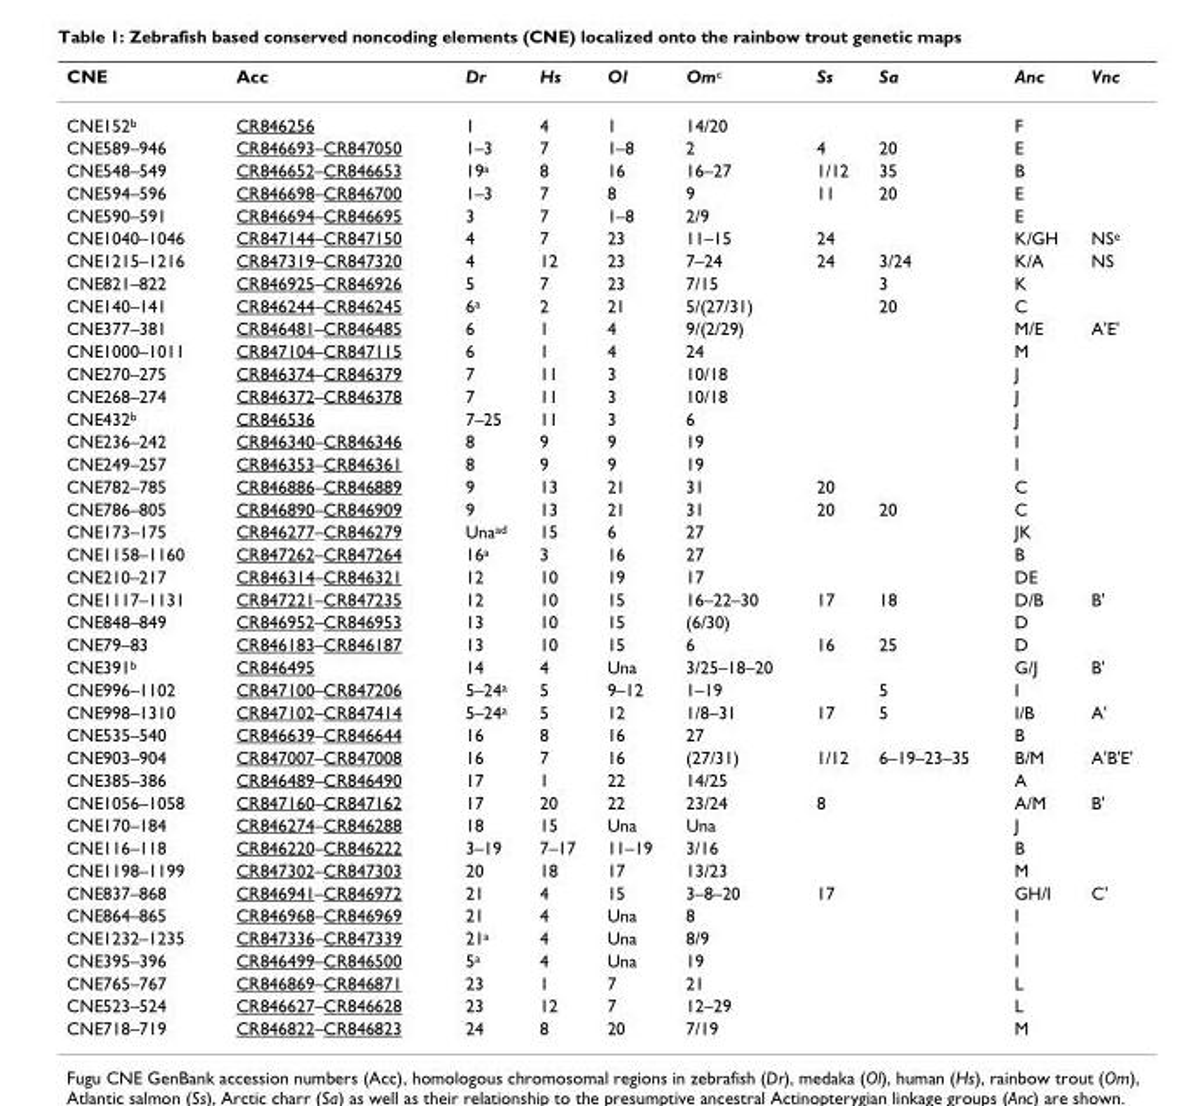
<table><thead><tr><td>CNE</td><td>Acc</td><td>Dr</td><td>Hs</td><td>Ol</td><td>Om<sup>c</sup></td><td>Ss</td><td>Sa</td><td>Anc</td><td>Vnc</td></tr></thead><tbody><tr><td>CNE152<sup>b</sup></td><td>CR846256</td><td>1</td><td>4</td><td>1</td><td>14/20</td><td></td><td></td><td>F</td><td></td></tr><tr><td>CNE589–946</td><td>CR846693–CR847050</td><td>1–3</td><td>7</td><td>1–8</td><td>2</td><td>4</td><td>20</td><td>E</td><td></td></tr><tr><td>CNE548–549</td><td>CR846652–CR846653</td><td>19<sup>a</sup></td><td>8</td><td>16</td><td>16–27</td><td>1/12</td><td>35</td><td>B</td><td></td></tr><tr><td>CNE594–596</td><td>CR846698–CR846700</td><td>1–3</td><td>7</td><td>8</td><td>9</td><td>11</td><td>20</td><td>E</td><td></td></tr><tr><td>CNE590–591</td><td>CR846694–CR846695</td><td>3</td><td>7</td><td>1–8</td><td>2/9</td><td></td><td></td><td>E</td><td></td></tr><tr><td>CNE1040–1046</td><td>CR847144–CR847150</td><td>4</td><td>7</td><td>23</td><td>11–15</td><td>24</td><td></td><td>K/GH</td><td>NS<sup>e</sup></td></tr><tr><td>CNE1215–1216</td><td>CR847319–CR847320</td><td>4</td><td>12</td><td>23</td><td>7–24</td><td>24</td><td>3/24</td><td>K/A</td><td>NS</td></tr><tr><td>CNE821–822</td><td>CR846925–CR846926</td><td>5</td><td>7</td><td>23</td><td>7/15</td><td></td><td>3</td><td>K</td><td></td></tr><tr><td>CNE140–141</td><td>CR846244–CR846245</td><td>6<sup>a</sup></td><td>2</td><td>21</td><td>5/(27/31)</td><td></td><td>20</td><td>C</td><td></td></tr><tr><td>CNE377–381</td><td>CR846481–CR846485</td><td>6</td><td>1</td><td>4</td><td>9/(2/29)</td><td></td><td></td><td>M/E</td><td>A&#x27;E&#x27;</td></tr><tr><td>CNE1000–1011</td><td>CR847104–CR847115</td><td>6</td><td>1</td><td>4</td><td>24</td><td></td><td></td><td>M</td><td></td></tr><tr><td>CNE270–275</td><td>CR846374–CR846379</td><td>7</td><td>11</td><td>3</td><td>10/18</td><td></td><td></td><td>J</td><td></td></tr><tr><td>CNE268–274</td><td>CR846372–CR846378</td><td>7</td><td>11</td><td>3</td><td>10/18</td><td></td><td></td><td>J</td><td></td></tr><tr><td>CNE432<sup>b</sup></td><td>CR846536</td><td>7–25</td><td>11</td><td>3</td><td>6</td><td></td><td></td><td>J</td><td></td></tr><tr><td>CNE236–242</td><td>CR846340–CR846346</td><td>8</td><td>9</td><td>9</td><td>19</td><td></td><td></td><td>I</td><td></td></tr><tr><td>CNE249–257</td><td>CR846353–CR846361</td><td>8</td><td>9</td><td>9</td><td>19</td><td></td><td></td><td>I</td><td></td></tr><tr><td>CNE782–785</td><td>CR846886–CR846889</td><td>9</td><td>13</td><td>21</td><td>31</td><td>20</td><td></td><td>C</td><td></td></tr><tr><td>CNE786–805</td><td>CR846890–CR846909</td><td>9</td><td>13</td><td>21</td><td>31</td><td>20</td><td>20</td><td>C</td><td></td></tr><tr><td>CNE173–175</td><td>CR846277–CR846279</td><td>Una<sup>ad</sup></td><td>15</td><td>6</td><td>27</td><td></td><td></td><td>JK</td><td></td></tr><tr><td>CNE1158–1160</td><td>CR847262–CR847264</td><td>16<sup>a</sup></td><td>3</td><td>16</td><td>27</td><td></td><td></td><td>B</td><td></td></tr><tr><td>CNE210–217</td><td>CR846314–CR846321</td><td>12</td><td>10</td><td>19</td><td>17</td><td></td><td></td><td>DE</td><td></td></tr><tr><td>CNE1117–1131</td><td>CR847221–CR847235</td><td>12</td><td>10</td><td>15</td><td>16–22–30</td><td>17</td><td>18</td><td>D/B</td><td>B&#x27;</td></tr><tr><td>CNE848–849</td><td>CR846952–CR846953</td><td>13</td><td>10</td><td>15</td><td>(6/30)</td><td></td><td></td><td>D</td><td></td></tr><tr><td>CNE79–83</td><td>CR846183–CR846187</td><td>13</td><td>10</td><td>15</td><td>6</td><td>16</td><td>25</td><td>D</td><td></td></tr><tr><td>CNE391<sup>b</sup></td><td>CR846495</td><td>14</td><td>4</td><td>Una</td><td>3/25–18–20</td><td></td><td></td><td>G/J</td><td>B&#x27;</td></tr><tr><td>CNE996–1102</td><td>CR847100–CR847206</td><td>5–24<sup>a</sup></td><td>5</td><td>9–12</td><td>1–19</td><td></td><td>5</td><td>I</td><td></td></tr><tr><td>CNE998–1310</td><td>CR847102–CR847414</td><td>5–24<sup>a</sup></td><td>5</td><td>12</td><td>1/8–31</td><td>17</td><td>5</td><td>I/B</td><td>A&#x27;</td></tr><tr><td>CNE535–540</td><td>CR846639–CR846644</td><td>16</td><td>8</td><td>16</td><td>27</td><td></td><td></td><td>B</td><td></td></tr><tr><td>CNE903–904</td><td>CR847007–CR847008</td><td>16</td><td>7</td><td>16</td><td>(27/31)</td><td>1/12</td><td>6–19–23–35</td><td>B/M</td><td>A&#x27;B&#x27;E&#x27;</td></tr><tr><td>CNE385–386</td><td>CR846489–CR846490</td><td>17</td><td>1</td><td>22</td><td>14/25</td><td></td><td></td><td>A</td><td></td></tr><tr><td>CNE1056–1058</td><td>CR847160–CR847162</td><td>17</td><td>20</td><td>22</td><td>23/24</td><td>8</td><td></td><td>A/M</td><td>B&#x27;</td></tr><tr><td>CNE170–184</td><td>CR846274–CR846288</td><td>18</td><td>15</td><td>Una</td><td>Una</td><td></td><td></td><td>J</td><td></td></tr><tr><td>CNE116–118</td><td>CR846220–CR846222</td><td>3–19</td><td>7–17</td><td>11–19</td><td>3/16</td><td></td><td></td><td>B</td><td></td></tr><tr><td>CNE1198–1199</td><td>CR847302–CR847303</td><td>20</td><td>18</td><td>17</td><td>13/23</td><td></td><td></td><td>M</td><td></td></tr><tr><td>CNE837–868</td><td>CR846941–CR846972</td><td>21</td><td>4</td><td>15</td><td>3–8–20</td><td>17</td><td></td><td>GH/I</td><td>C&#x27;</td></tr><tr><td>CNE864–865</td><td>CR846968–CR846969</td><td>21</td><td>4</td><td>Una</td><td>8</td><td></td><td></td><td>I</td><td></td></tr><tr><td>CNE1232–1235</td><td>CR847336–CR847339</td><td>21<sup>a</sup></td><td>4</td><td>Una</td><td>8/9</td><td></td><td></td><td>I</td><td></td></tr><tr><td>CNE395–396</td><td>CR846499–CR846500</td><td>5<sup>a</sup></td><td>4</td><td>Una</td><td>19</td><td></td><td></td><td>I</td><td></td></tr><tr><td>CNE765–767</td><td>CR846869–CR846871</td><td>23</td><td>1</td><td>7</td><td>21</td><td></td><td></td><td>L</td><td></td></tr><tr><td>CNE523–524</td><td>CR846627–CR846628</td><td>23</td><td>12</td><td>7</td><td>12–29</td><td></td><td></td><td>L</td><td></td></tr><tr><td>CNE718–719</td><td>CR846822–CR846823</td><td>24</td><td>8</td><td>20</td><td>7/19</td><td></td><td></td><td>M</td><td></td></tr></tbody></table>